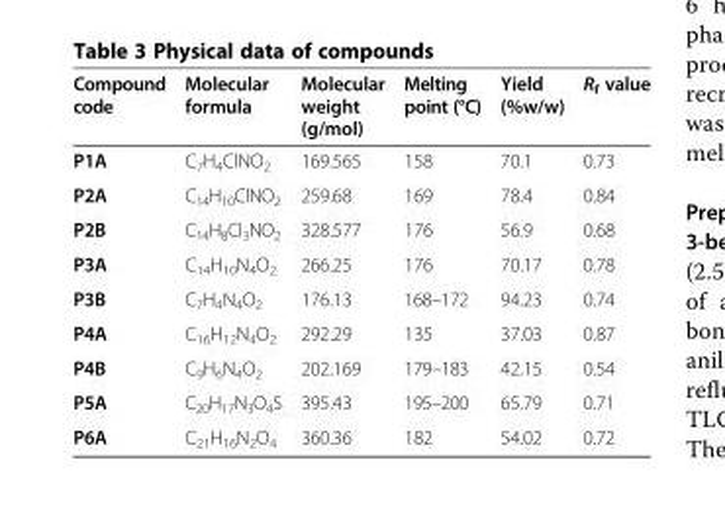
<table><thead><tr><td>Compound code</td><td>Molecular formula</td><td>Molecular weight (g/mol)</td><td>Melting point (°C)</td><td>Yield (%w/w)</td><td>R<sub>f</sub> value</td></tr></thead><tbody><tr><td>P1A</td><td>C<sub>7</sub>H<sub>4</sub>ClNO<sub>2</sub></td><td>169.565</td><td>158</td><td>70.1</td><td>0.73</td></tr><tr><td>P2A</td><td>C<sub>14</sub>H<sub>10</sub>ClNO<sub>2</sub></td><td>259.68</td><td>169</td><td>78.4</td><td>0.84</td></tr><tr><td>P2B</td><td>C<sub>14</sub>H<sub>8</sub>Cl<sub>3</sub>NO<sub>2</sub></td><td>328.577</td><td>176</td><td>56.9</td><td>0.68</td></tr><tr><td>P3A</td><td>C<sub>14</sub>H<sub>10</sub>N<sub>4</sub>O<sub>2</sub></td><td>266.25</td><td>176</td><td>70.17</td><td>0.78</td></tr><tr><td>P3B</td><td>C<sub>7</sub>H<sub>4</sub>N<sub>4</sub>O<sub>2</sub></td><td>176.13</td><td>168–172</td><td>94.23</td><td>0.74</td></tr><tr><td>P4A</td><td>C<sub>16</sub>H<sub>12</sub>N<sub>4</sub>O<sub>2</sub></td><td>292.29</td><td>135</td><td>37.03</td><td>0.87</td></tr><tr><td>P4B</td><td>C<sub>9</sub>H<sub>6</sub>N<sub>4</sub>O<sub>2</sub></td><td>202.169</td><td>179–183</td><td>42.15</td><td>0.54</td></tr><tr><td>P5A</td><td>C<sub>20</sub>H<sub>17</sub>N<sub>3</sub>O<sub>4</sub>S</td><td>395.43</td><td>195–200</td><td>65.79</td><td>0.71</td></tr><tr><td>P6A</td><td>C<sub>21</sub>H<sub>16</sub>N<sub>2</sub>O<sub>4</sub></td><td>360.36</td><td>182</td><td>54.02</td><td>0.72</td></tr></tbody></table>